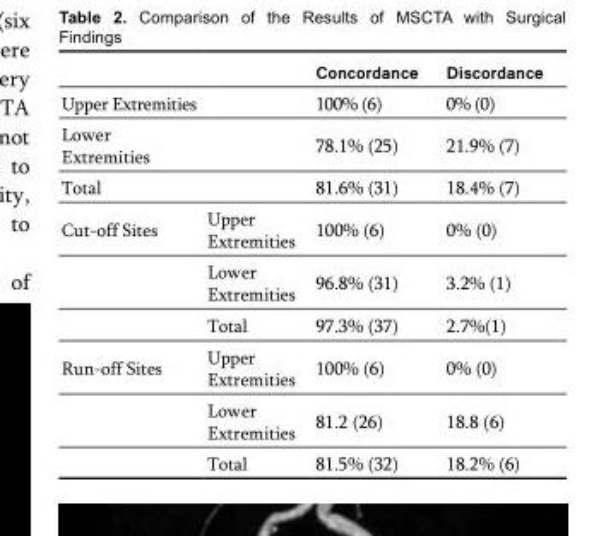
<table><thead><tr><td></td><td></td><td>Concordance</td><td>Discordance</td></tr></thead><tbody><tr><td>Upper Extremities</td><td></td><td>100% (6)</td><td>0% (0)</td></tr><tr><td>Lower Extremities</td><td></td><td>78.1% (25)</td><td>21.9% (7)</td></tr><tr><td>Total</td><td></td><td>81.6% (31)</td><td>18.4% (7)</td></tr><tr><td rowspan="3">Cut-off Sites</td><td>Upper Extremities</td><td>100% (6)</td><td>0% (0)</td></tr><tr><td>Lower Extremities</td><td>96.8% (31)</td><td>3.2% (1)</td></tr><tr><td>Total</td><td>97.3% (37)</td><td>2.7%(1)</td></tr><tr><td rowspan="3">Run-off Sites</td><td>Upper Extremities</td><td>100% (6)</td><td>0% (0)</td></tr><tr><td>Lower Extremities</td><td>81.2 (26)</td><td>18.8 (6)</td></tr><tr><td>Total</td><td>81.5% (32)</td><td>18.2% (6)</td></tr></tbody></table>